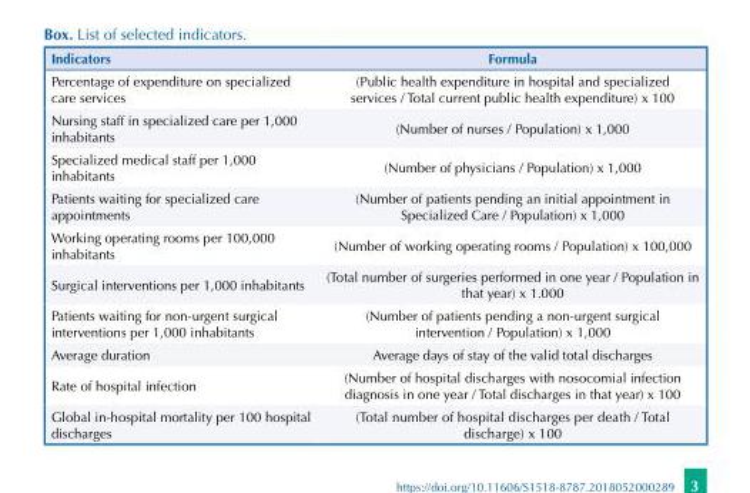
<table><thead><tr><td>Indicators</td><td>Formula</td></tr></thead><tbody><tr><td>Percentage of expenditure on specialized care services</td><td>(Public health expenditure in hospital and specialized services / Total current public health expenditure) x 100</td></tr><tr><td>Nursing staff in specialized care per 1,000 inhabitants</td><td>(Number of nurses / Population) x 1,000</td></tr><tr><td>Specialized medical staff per 1,000 inhabitants</td><td>(Number of physicians / Population) x 1,000</td></tr><tr><td>Patients waiting for specialized care appointments</td><td>(Number of patients pending an initial appointment in Specialized Care / Population) x 1,000</td></tr><tr><td>Working operating rooms per 100,000 inhabitants</td><td>(Number of working operating rooms / Population) x 100,000</td></tr><tr><td>Surgical interventions per 1,000 inhabitants</td><td>(Total number of surgeries performed in one year / Population in that year) x 1.000</td></tr><tr><td>Patients waiting for non-urgent surgical interventions per 1,000 inhabitants</td><td>(Number of patients pending a non-urgent surgical intervention / Population) x 1,000</td></tr><tr><td>Average duration</td><td>Average days of stay of the valid total discharges</td></tr><tr><td>Rate of hospital infection</td><td>(Number of hospital discharges with nosocomial infection diagnosis in one year / Total discharges in that year) x 100</td></tr><tr><td>Global in-hospital mortality per 100 hospital discharges</td><td>(Total number of hospital discharges per death / Total discharge) x 100</td></tr></tbody></table>